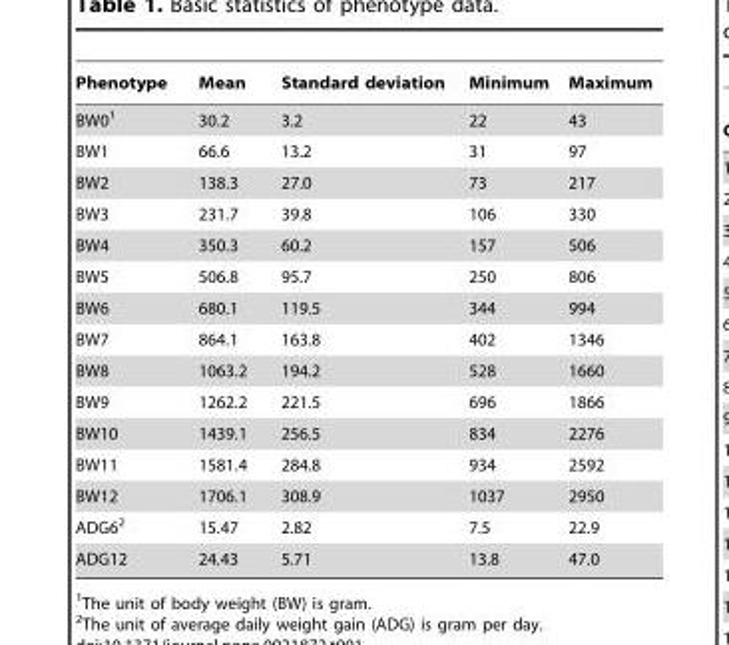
<table><thead><tr><td>Phenotype</td><td>Mean</td><td>Standard deviation</td><td>Minimum</td><td>Maximum</td></tr></thead><tbody><tr><td>BW0<sup>1</sup></td><td>30.2</td><td>3.2</td><td>22</td><td>43</td></tr><tr><td>BW1</td><td>66.6</td><td>13.2</td><td>31</td><td>97</td></tr><tr><td>BW2</td><td>138.3</td><td>27.0</td><td>73</td><td>217</td></tr><tr><td>BW3</td><td>231.7</td><td>39.8</td><td>106</td><td>330</td></tr><tr><td>BW4</td><td>350.3</td><td>60.2</td><td>157</td><td>506</td></tr><tr><td>BW5</td><td>506.8</td><td>95.7</td><td>250</td><td>806</td></tr><tr><td>BW6</td><td>680.1</td><td>119.5</td><td>344</td><td>994</td></tr><tr><td>BW7</td><td>864.1</td><td>163.8</td><td>402</td><td>1346</td></tr><tr><td>BW8</td><td>1063.2</td><td>194.2</td><td>528</td><td>1660</td></tr><tr><td>BW9</td><td>1262.2</td><td>221.5</td><td>696</td><td>1866</td></tr><tr><td>BW10</td><td>1439.1</td><td>256.5</td><td>834</td><td>2276</td></tr><tr><td>BW11</td><td>1581.4</td><td>284.8</td><td>934</td><td>2592</td></tr><tr><td>BW12</td><td>1706.1</td><td>308.9</td><td>1037</td><td>2950</td></tr><tr><td>ADG6<sup>2</sup></td><td>15.47</td><td>2.82</td><td>7.5</td><td>22.9</td></tr><tr><td>ADG12</td><td>24.43</td><td>5.71</td><td>13.8</td><td>47.0</td></tr></tbody></table>